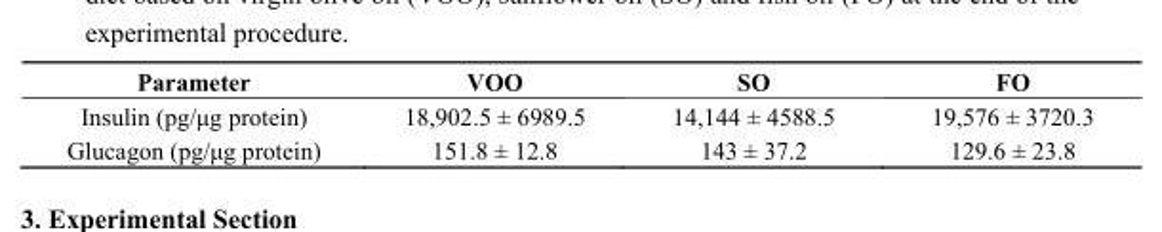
<table><thead><tr><td>Parameter</td><td>VOO</td><td>SO</td><td>FO</td></tr></thead><tbody><tr><td>Insulin (pg/μg protein)</td><td>18,902.5 ± 6989.5</td><td>14,144 ± 4588.5</td><td>19,576 ± 3720.3</td></tr><tr><td>Glucagon (pg/μg protein)</td><td>151.8 ± 12.8</td><td>143 ± 37.2</td><td>129.6 ± 23.8</td></tr></tbody></table>